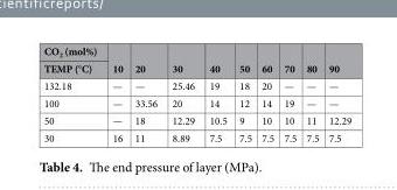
<table><thead><tr><td rowspan="2">CO<sub>2</sub> (mol%) TEMP (°C)</td><td rowspan="2">10</td><td rowspan="2">20</td><td rowspan="2">30</td><td rowspan="2">40</td><td rowspan="2">50</td><td rowspan="2">60</td><td rowspan="2">70</td><td rowspan="2">80</td><td rowspan="2">90</td></tr><tr></tr></thead><tbody><tr><td>132.18</td><td>—</td><td>—</td><td>25.46</td><td>19</td><td>18</td><td>20</td><td>—</td><td>—</td><td>—</td></tr><tr><td>100</td><td>—</td><td>33.56</td><td>20</td><td>14</td><td>12</td><td>14</td><td>19</td><td>—</td><td>—</td></tr><tr><td>50</td><td>—</td><td>18</td><td>12.29</td><td>10.5</td><td>9</td><td>10</td><td>10</td><td>11</td><td>12.29</td></tr><tr><td>30</td><td>16</td><td>11</td><td>8.89</td><td>7.5</td><td>7.5</td><td>7.5</td><td>7.5</td><td>7.5</td><td>7.5</td></tr></tbody></table>